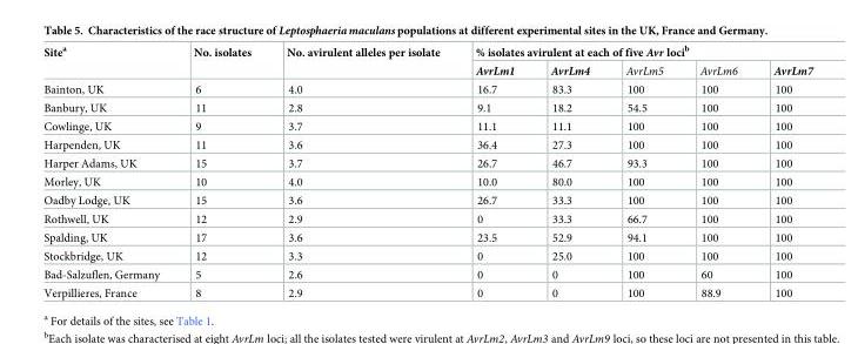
<table><tbody><tr><td rowspan="2">Site<sup>a</sup></td><td rowspan="2">No. isolates</td><td rowspan="2">No. avirulent alleles per isolate</td><td colspan="5">% isolates avirulent at each of five Avr loci<sup>b</sup></td></tr><tr><td>AvrLm1</td><td>AvrLm4</td><td>AvrLm5</td><td>AvrLm6</td><td>AvrLm7</td></tr><tr><td>Bainton, UK</td><td>6</td><td>4.0</td><td>16.7</td><td>83.3</td><td>100</td><td>100</td><td>100</td></tr><tr><td>Banbury, UK</td><td>11</td><td>2.8</td><td>9.1</td><td>18.2</td><td>54.5</td><td>100</td><td>100</td></tr><tr><td>Cowlinge, UK</td><td>9</td><td>3.7</td><td>11.1</td><td>11.1</td><td>100</td><td>100</td><td>100</td></tr><tr><td>Harpenden, UK</td><td>11</td><td>3.6</td><td>36.4</td><td>27.3</td><td>100</td><td>100</td><td>100</td></tr><tr><td>Harper Adams, UK</td><td>15</td><td>3.7</td><td>26.7</td><td>46.7</td><td>93.3</td><td>100</td><td>100</td></tr><tr><td>Morley, UK</td><td>10</td><td>4.0</td><td>10.0</td><td>80.0</td><td>100</td><td>100</td><td>100</td></tr><tr><td>Oadby Lodge, UK</td><td>15</td><td>3.6</td><td>26.7</td><td>33.3</td><td>100</td><td>100</td><td>100</td></tr><tr><td>Rothwell, UK</td><td>12</td><td>2.9</td><td>0</td><td>33.3</td><td>66.7</td><td>100</td><td>100</td></tr><tr><td>Spalding, UK</td><td>17</td><td>3.6</td><td>23.5</td><td>52.9</td><td>94.1</td><td>100</td><td>100</td></tr><tr><td>Stockbridge, UK</td><td>12</td><td>3.3</td><td>0</td><td>25.0</td><td>100</td><td>100</td><td>100</td></tr><tr><td>Bad-Salzuflen, Germany</td><td>5</td><td>2.6</td><td>0</td><td>0</td><td>100</td><td>60</td><td>100</td></tr><tr><td>Verpillieres, France</td><td>8</td><td>2.9</td><td>0</td><td>0</td><td>100</td><td>88.9</td><td>100</td></tr></tbody></table>